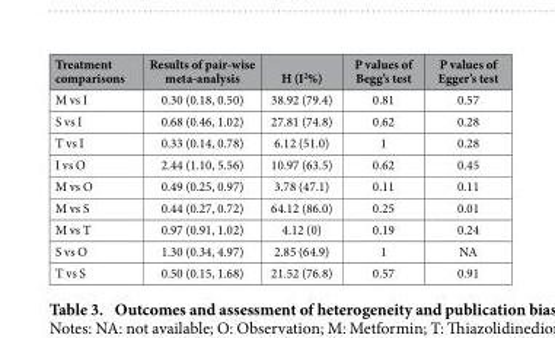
<table><thead><tr><td>Treatment comparisons</td><td>Results of pair-wise meta-analysis</td><td>H (I<sup>2</sup>%)</td><td>P values of Begg’s test</td><td>P values of Egger’s test</td></tr></thead><tbody><tr><td>M vs I</td><td>0.30 (0.18, 0.50)</td><td>38.92 (79.4)</td><td>0.81</td><td>0.57</td></tr><tr><td>S vs I</td><td>0.68 (0.46, 1.02)</td><td>27.81 (74.8)</td><td>0.62</td><td>0.28</td></tr><tr><td>T vs I</td><td>0.33 (0.14, 0.78)</td><td>6.12 (51.0)</td><td>1</td><td>0.28</td></tr><tr><td>I vs O</td><td>2.44 (1.10, 5.56)</td><td>10.97 (63.5)</td><td>0.62</td><td>0.45</td></tr><tr><td>M vs O</td><td>0.49 (0.25, 0.97)</td><td>3.78 (47.1)</td><td>0.11</td><td>0.11</td></tr><tr><td>M vs S</td><td>0.44 (0.27, 0.72)</td><td>64.12 (86.0)</td><td>0.25</td><td>0.01</td></tr><tr><td>M vs T</td><td>0.97 (0.91, 1.02)</td><td>4.12 (0)</td><td>0.19</td><td>0.24</td></tr><tr><td>S vs O</td><td>1.30 (0.34, 4.97)</td><td>2.85 (64.9)</td><td>1</td><td>NA</td></tr><tr><td>T vs S</td><td>0.50 (0.15, 1.68)</td><td>21.52 (76.8)</td><td>0.57</td><td>0.91</td></tr></tbody></table>